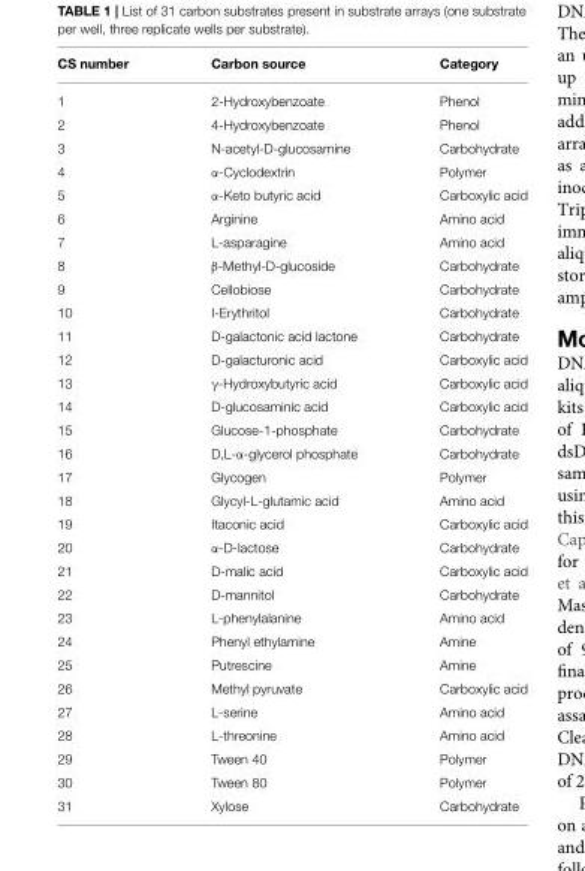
<table><thead><tr><td>CS number</td><td>Carbon source</td><td>Category</td></tr></thead><tbody><tr><td>1</td><td>2-Hydroxybenzoate</td><td>Phenol</td></tr><tr><td>2</td><td>4-Hydroxybenzoate</td><td>Phenol</td></tr><tr><td>3</td><td>N-acetyl-D-glucosamine</td><td>Carbohydrate</td></tr><tr><td>4</td><td>α-Cyclodextrin</td><td>Polymer</td></tr><tr><td>5</td><td>α-Keto butyric acid</td><td>Carboxylic acid</td></tr><tr><td>6</td><td>Arginine</td><td>Amino acid</td></tr><tr><td>7</td><td>L-asparagine</td><td>Amino acid</td></tr><tr><td>8</td><td>β-Methyl-D-glucoside</td><td>Carbohydrate</td></tr><tr><td>9</td><td>Cellobiose</td><td>Carbohydrate</td></tr><tr><td>10</td><td>I-Erythritol</td><td>Carbohydrate</td></tr><tr><td>11</td><td>D-galactonic acid lactone</td><td>Carbohydrate</td></tr><tr><td>12</td><td>D-galacturonic acid</td><td>Carboxylic acid</td></tr><tr><td>13</td><td>γ-Hydroxybutyric acid</td><td>Carboxylic acid</td></tr><tr><td>14</td><td>D-glucosaminic acid</td><td>Carboxylic acid</td></tr><tr><td>15</td><td>Glucose-1-phosphate</td><td>Carbohydrate</td></tr><tr><td>16</td><td>D,L-α-glycerol phosphate</td><td>Carbohydrate</td></tr><tr><td>17</td><td>Glycogen</td><td>Polymer</td></tr><tr><td>18</td><td>Glycyl-L-glutamic acid</td><td>Amino acid</td></tr><tr><td>19</td><td>Itaconic acid</td><td>Carboxylic acid</td></tr><tr><td>20</td><td>α-D-lactose</td><td>Carbohydrate</td></tr><tr><td>21</td><td>D-malic acid</td><td>Carboxylic acid</td></tr><tr><td>22</td><td>D-mannitol</td><td>Carbohydrate</td></tr><tr><td>23</td><td>L-phenylalanine</td><td>Amino acid</td></tr><tr><td>24</td><td>Phenyl ethylamine</td><td>Amine</td></tr><tr><td>25</td><td>Putrescine</td><td>Amine</td></tr><tr><td>26</td><td>Methyl pyruvate</td><td>Carboxylic acid</td></tr><tr><td>27</td><td>L-serine</td><td>Amino acid</td></tr><tr><td>28</td><td>L-threonine</td><td>Amino acid</td></tr><tr><td>29</td><td>Tween 40</td><td>Polymer</td></tr><tr><td>30</td><td>Tween 80</td><td>Polymer</td></tr><tr><td>31</td><td>Xylose</td><td>Carbohydrate</td></tr></tbody></table>